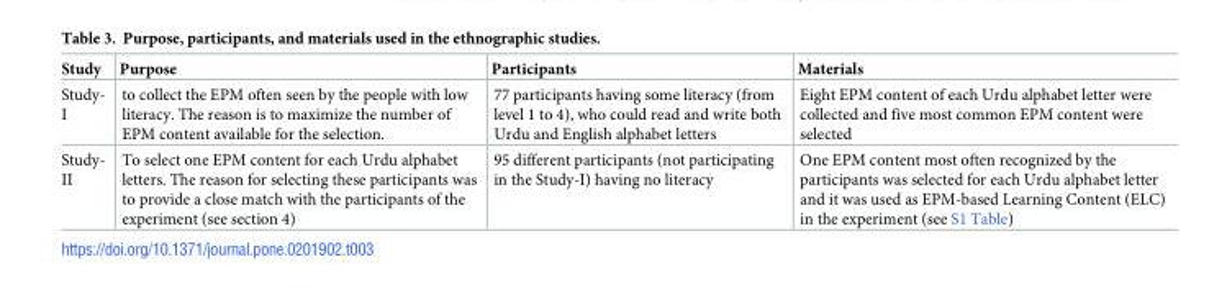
<table><thead><tr><td>Study</td><td>Purpose</td><td>Participants</td><td>Materials</td></tr></thead><tbody><tr><td>Study- I</td><td>to collect the EPM often seen by the people with low literacy. The reason is to maximize the number of EPM content available for the selection.</td><td>77 participants having some literacy (from level 1 to 4), who could read and write both Urdu and English alphabet letters</td><td>Eight EPM content of each Urdu alphabet letter were collected and five most common EPM content were selected</td></tr><tr><td>Study- II</td><td>To select one EPM content for each Urdu alphabet letters. The reason for selecting these participants was to provide a close match with the participants of the experiment (see section 4)</td><td>95 different participants (not participating in the Study-I) having no literacy</td><td>One EPM content most often recognized by the participants was selected for each Urdu alphabet letter and it was used as EPM-based Learning Content (ELC) in the experiment (see S1 Table)</td></tr></tbody></table>